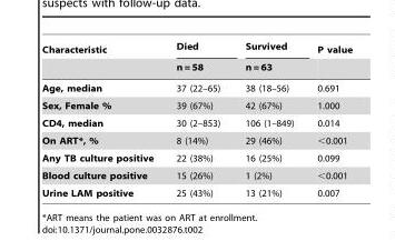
<table><thead><tr><td rowspan="2">Characteristic</td><td rowspan="2">Died n = 58</td><td rowspan="2">Survived n = 63</td><td rowspan="2">P value</td></tr><tr></tr></thead><tbody><tr><td>Age, median</td><td>37 (22–65)</td><td>38 (18–56)</td><td>0.691</td></tr><tr><td>Sex, Female %</td><td>39 (67%)</td><td>42 (67%)</td><td>1.000</td></tr><tr><td>CD4, median</td><td>30 (2–853)</td><td>106 (1–849)</td><td>0.014</td></tr><tr><td>On ART*, %</td><td>8 (14%)</td><td>29 (46%)</td><td>&lt;0.001</td></tr><tr><td>Any TB culture positive</td><td>22 (38%)</td><td>16 (25%)</td><td>0.099</td></tr><tr><td>Blood culture positive</td><td>15 (26%)</td><td>1 (2%)</td><td>&lt;0.001</td></tr><tr><td>Urine LAM positive</td><td>25 (43%)</td><td>13 (21%)</td><td>0.007</td></tr></tbody></table>